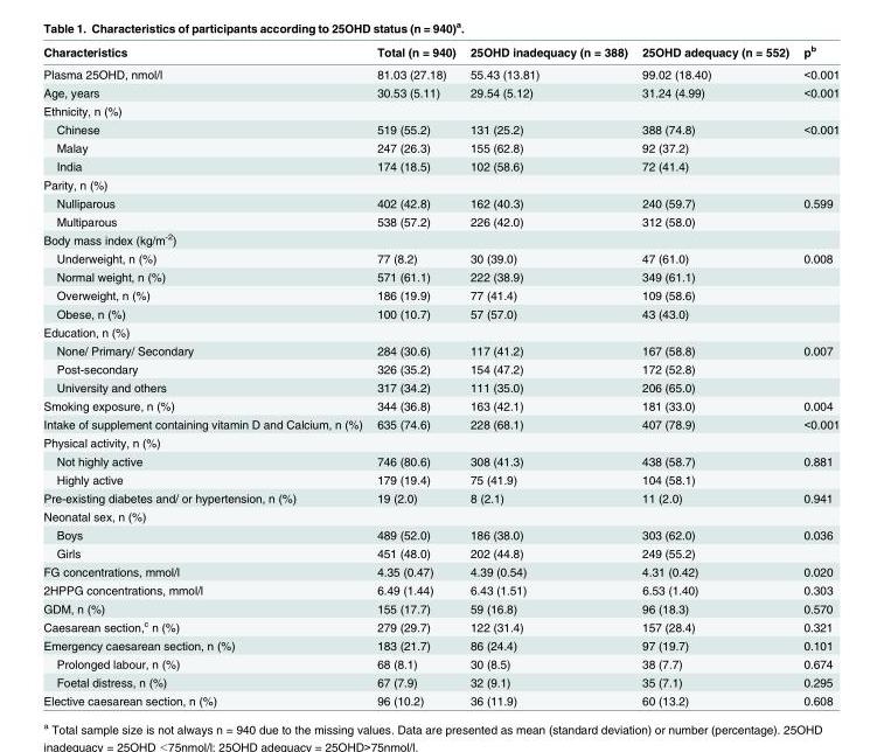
<table><thead><tr><td>Characteristics</td><td>Total (n = 940)</td><td>25OHD inadequacy (n = 388)</td><td>25OHD adequacy (n = 552)</td><td>p<sup>b</sup></td></tr></thead><tbody><tr><td>Plasma 25OHD, nmol/l</td><td>81.03 (27.18)</td><td>55.43 (13.81)</td><td>99.02 (18.40)</td><td>&lt;0.001</td></tr><tr><td>Age, years</td><td>30.53 (5.11)</td><td>29.54 (5.12)</td><td>31.24 (4.99)</td><td>&lt;0.001</td></tr><tr><td colspan="5">Ethnicity, n (%)</td></tr><tr><td>Chinese</td><td>519 (55.2)</td><td>131 (25.2)</td><td>388 (74.8)</td><td>&lt;0.001</td></tr><tr><td>Malay</td><td>247 (26.3)</td><td>155 (62.8)</td><td>92 (37.2)</td><td></td></tr><tr><td>India</td><td>174 (18.5)</td><td>102 (58.6)</td><td>72 (41.4)</td><td></td></tr><tr><td colspan="5">Parity, n (%)</td></tr><tr><td>Nulliparous</td><td>402 (42.8)</td><td>162 (40.3)</td><td>240 (59.7)</td><td>0.599</td></tr><tr><td>Multiparous</td><td>538 (57.2)</td><td>226 (42.0)</td><td>312 (58.0)</td><td></td></tr><tr><td colspan="5">Body mass index (kg/m<sup>-2</sup>)</td></tr><tr><td>Underweight, n (%)</td><td>77 (8.2)</td><td>30 (39.0)</td><td>47 (61.0)</td><td>0.008</td></tr><tr><td>Normal weight, n (%)</td><td>571 (61.1)</td><td>222 (38.9)</td><td>349 (61.1)</td><td></td></tr><tr><td>Overweight, n (%)</td><td>186 (19.9)</td><td>77 (41.4)</td><td>109 (58.6)</td><td></td></tr><tr><td>Obese, n (%)</td><td>100 (10.7)</td><td>57 (57.0)</td><td>43 (43.0)</td><td></td></tr><tr><td colspan="5">Education, n (%)</td></tr><tr><td>None/ Primary/ Secondary</td><td>284 (30.6)</td><td>117 (41.2)</td><td>167 (58.8)</td><td>0.007</td></tr><tr><td>Post-secondary</td><td>326 (35.2)</td><td>154 (47.2)</td><td>172 (52.8)</td><td></td></tr><tr><td>University and others</td><td>317 (34.2)</td><td>111 (35.0)</td><td>206 (65.0)</td><td></td></tr><tr><td>Smoking exposure, n (%)</td><td>344 (36.8)</td><td>163 (42.1)</td><td>181 (33.0)</td><td>0.004</td></tr><tr><td>Intake of supplement containing vitamin D and Calcium, n (%)</td><td>635 (74.6)</td><td>228 (68.1)</td><td>407 (78.9)</td><td>&lt;0.001</td></tr><tr><td colspan="5">Physical activity, n (%)</td></tr><tr><td>Not highly active</td><td>746 (80.6)</td><td>308 (41.3)</td><td>438 (58.7)</td><td>0.881</td></tr><tr><td>Highly active</td><td>179 (19.4)</td><td>75 (41.9)</td><td>104 (58.1)</td><td></td></tr><tr><td>Pre-existing diabetes and/ or hypertension, n (%)</td><td>19 (2.0)</td><td>8 (2.1)</td><td>11 (2.0)</td><td>0.941</td></tr><tr><td colspan="5">Neonatal sex, n (%)</td></tr><tr><td>Boys</td><td>489 (52.0)</td><td>186 (38.0)</td><td>303 (62.0)</td><td>0.036</td></tr><tr><td>Girls</td><td>451 (48.0)</td><td>202 (44.8)</td><td>249 (55.2)</td><td></td></tr><tr><td>FG concentrations, mmol/l</td><td>4.35 (0.47)</td><td>4.39 (0.54)</td><td>4.31 (0.42)</td><td>0.020</td></tr><tr><td>2HPPG concentrations, mmol/l</td><td>6.49 (1.44)</td><td>6.43 (1.51)</td><td>6.53 (1.40)</td><td>0.303</td></tr><tr><td>GDM, n (%)</td><td>155 (17.7)</td><td>59 (16.8)</td><td>96 (18.3)</td><td>0.570</td></tr><tr><td>Caesarean section,<sup>c</sup> n (%)</td><td>279 (29.7)</td><td>122 (31.4)</td><td>157 (28.4)</td><td>0.321</td></tr><tr><td>Emergency caesarean section, n (%)</td><td>183 (21.7)</td><td>86 (24.4)</td><td>97 (19.7)</td><td>0.101</td></tr><tr><td>Prolonged labour, n (%)</td><td>68 (8.1)</td><td>30 (8.5)</td><td>38 (7.7)</td><td>0.674</td></tr><tr><td>Foetal distress, n (%)</td><td>67 (7.9)</td><td>32 (9.1)</td><td>35 (7.1)</td><td>0.295</td></tr><tr><td>Elective caesarean section, n (%)</td><td>96 (10.2)</td><td>36 (11.9)</td><td>60 (13.2)</td><td>0.608</td></tr></tbody></table>